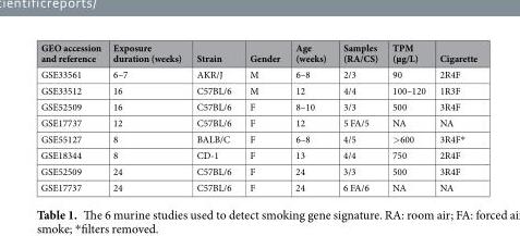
<table><thead><tr><td>GEO accession and reference</td><td>Exposure duration (weeks)</td><td>Strain</td><td>Gender</td><td>Age (weeks)</td><td>Samples (RA/CS)</td><td>TPM (µg/L)</td><td>Cigarette</td></tr></thead><tbody><tr><td>GSE33561</td><td>6–7</td><td>AKR/J</td><td>M</td><td>6–8</td><td>2/3</td><td>90</td><td>2R4F</td></tr><tr><td>GSE33512</td><td>16</td><td>C57BL/6</td><td>M</td><td>12</td><td>4/4</td><td>100–120</td><td>1R3F</td></tr><tr><td>GSE52509</td><td>16</td><td>C57BL/6</td><td>F</td><td>8–10</td><td>3/3</td><td>500</td><td>3R4F</td></tr><tr><td>GSE17737</td><td>12</td><td>C57BL/6</td><td>F</td><td>12</td><td>5 FA/5</td><td>NA</td><td>NA</td></tr><tr><td>GSE55127</td><td>8</td><td>BALB/C</td><td>F</td><td>6–8</td><td>4/5</td><td>&gt;600</td><td>3R4F*</td></tr><tr><td>GSE18344</td><td>8</td><td>CD-1</td><td>F</td><td>13</td><td>4/4</td><td>750</td><td>2R4F</td></tr><tr><td>GSE52509</td><td>24</td><td>C57BL/6</td><td>F</td><td>24</td><td>3/3</td><td>500</td><td>3R4F</td></tr><tr><td>GSE17737</td><td>24</td><td>C57BL/6</td><td>F</td><td>24</td><td>6 FA/6</td><td>NA</td><td>NA</td></tr></tbody></table>